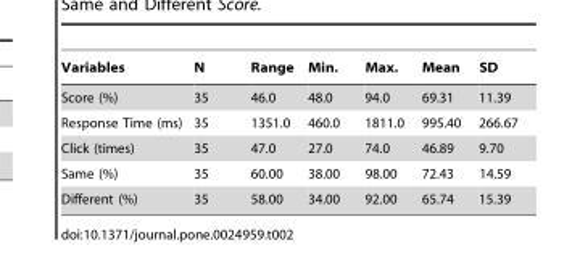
<table><thead><tr><td>Variables</td><td>N</td><td>Range</td><td>Min.</td><td>Max.</td><td>Mean</td><td>SD</td></tr></thead><tbody><tr><td>Score (%)</td><td>35</td><td>46.0</td><td>48.0</td><td>94.0</td><td>69.31</td><td>11.39</td></tr><tr><td>Response Time (ms)</td><td>35</td><td>1351.0</td><td>460.0</td><td>1811.0</td><td>995.40</td><td>266.67</td></tr><tr><td>Click (times)</td><td>35</td><td>47.0</td><td>27.0</td><td>74.0</td><td>46.89</td><td>9.70</td></tr><tr><td>Same (%)</td><td>35</td><td>60.00</td><td>38.00</td><td>98.00</td><td>72.43</td><td>14.59</td></tr><tr><td>Different (%)</td><td>35</td><td>58.00</td><td>34.00</td><td>92.00</td><td>65.74</td><td>15.39</td></tr></tbody></table>